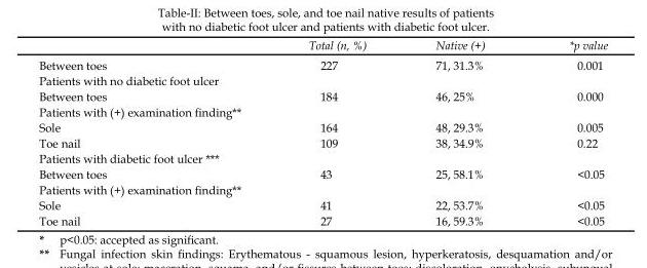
<table><thead><tr><td></td><td>Total (n, %)</td><td>Native (+)</td><td>*p value</td></tr></thead><tbody><tr><td>Between toes</td><td>227</td><td>71, 31.3%</td><td>0.001</td></tr><tr><td colspan="4">Patients with no diabetic foot ulcer</td></tr><tr><td>Between toes</td><td>184</td><td>46, 25%</td><td>0.000</td></tr><tr><td colspan="4">Patients with (+) examination finding**</td></tr><tr><td>Sole</td><td>164</td><td>48, 29.3%</td><td>0.005</td></tr><tr><td>Toe nail</td><td>109</td><td>38, 34.9%</td><td>0.22</td></tr><tr><td colspan="4">Patients with diabetic foot ulcer ***</td></tr><tr><td>Between toes</td><td>43</td><td>25, 58.1%</td><td>&lt;0.05</td></tr><tr><td colspan="4">Patients with (+) examination finding**</td></tr><tr><td>Sole</td><td>41</td><td>22, 53.7%</td><td>&lt;0.05</td></tr><tr><td>Toe nail</td><td>27</td><td>16, 59.3%</td><td>&lt;0.05</td></tr></tbody></table>